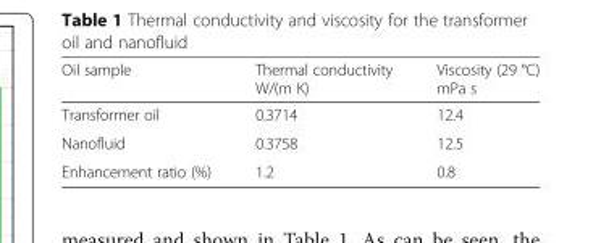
<table><thead><tr><td>Oil sample</td><td>Thermal conductivity W/(m K)</td><td>Viscosity (29 °C) mPa s</td></tr></thead><tbody><tr><td>Transformer oil</td><td>0.3714</td><td>12.4</td></tr><tr><td>Nanofluid</td><td>0.3758</td><td>12.5</td></tr><tr><td>Enhancement ratio (%)</td><td>1.2</td><td>0.8</td></tr></tbody></table>